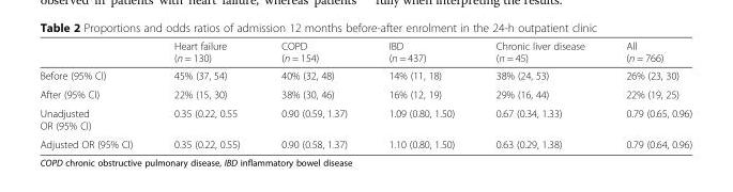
<table><thead><tr><td></td><td>Heart failure (n = 130)</td><td>COPD (n = 154)</td><td>IBD (n = 437)</td><td>Chronic liver disease (n = 45)</td><td>All (n = 766)</td></tr></thead><tbody><tr><td>Before (95% CI)</td><td>45% (37, 54)</td><td>40% (32, 48)</td><td>14% (11, 18)</td><td>38% (24, 53)</td><td>26% (23, 30)</td></tr><tr><td>After (95% CI)</td><td>22% (15, 30)</td><td>38% (30, 46)</td><td>16% (12, 19)</td><td>29% (16, 44)</td><td>22% (19, 25)</td></tr><tr><td>Unadjusted OR (95% CI)</td><td>0.35 (0.22, 0.55</td><td>0.90 (0.59, 1.37)</td><td>1.09 (0.80, 1.50)</td><td>0.67 (0.34, 1.33)</td><td>0.79 (0.65, 0.96)</td></tr><tr><td>Adjusted OR (95% CI)</td><td>0.35 (0.22, 0.55)</td><td>0.90 (0.58, 1.37)</td><td>1.10 (0.80, 1.50)</td><td>0.63 (0.29, 1.38)</td><td>0.79 (0.64, 0.96)</td></tr></tbody></table>